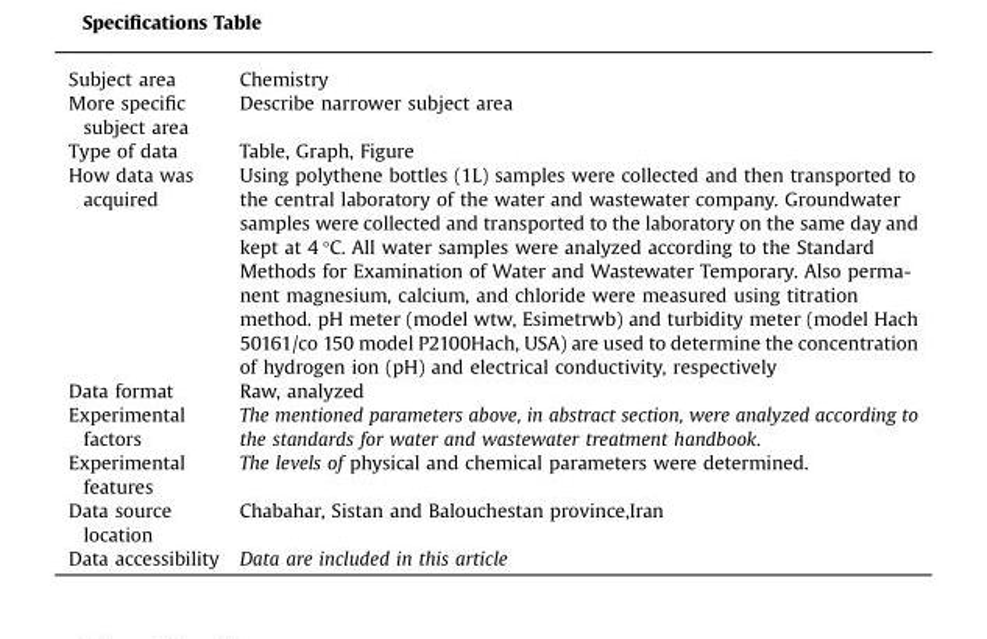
<table><tbody><tr><td>Subject area</td><td>Chemistry</td></tr><tr><td>More specific subject area</td><td>Describe narrower subject area</td></tr><tr><td>Type of data</td><td>Table, Graph, Figure</td></tr><tr><td>How data was acquired</td><td>Using polythene bottles (1L) samples were collected and then transported to the central laboratory of the water and wastewater company. Groundwater samples were collected and transported to the laboratory on the same day and kept at 4 °C. All water samples were analyzed according to the Standard Methods for Examination of Water and Wastewater Temporary. Also perma- nent magnesium, calcium, and chloride were measured using titration method. pH meter (model wtw, Esimetrwb) and turbidity meter (model Hach 50161/co 150 model P2100Hach, USA) are used to determine the concentration of hydrogen ion (pH) and electrical conductivity, respectively</td></tr><tr><td>Data format</td><td>Raw, analyzed</td></tr><tr><td>Experimental factors</td><td>The mentioned parameters above, in abstract section, were analyzed according to the standards for water and wastewater treatment handbook.</td></tr><tr><td>Experimental features</td><td>The levels of physical and chemical parameters were determined.</td></tr><tr><td>Data source location</td><td>Chabahar, Sistan and Balouchestan province,Iran</td></tr><tr><td>Data accessibility</td><td>Data are included in this article</td></tr></tbody></table>